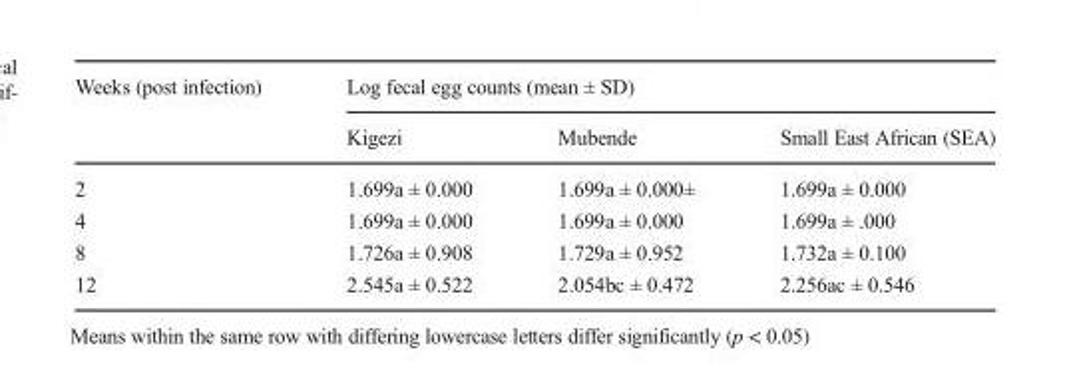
<table><thead><tr><td rowspan="2">Weeks (post infection)</td><td colspan="3">Log fecal egg counts (mean ± SD)</td></tr><tr><td>Kigezi</td><td>Mubende</td><td>Small East African (SEA)</td></tr></thead><tbody><tr><td>2</td><td>1.699a ± 0.000</td><td>1.699a ± 0.000±</td><td>1.699a ± 0.000</td></tr><tr><td>4</td><td>1.699a ± 0.000</td><td>1.699a ± 0.000</td><td>1.699a ± .000</td></tr><tr><td>8</td><td>1.726a ± 0.908</td><td>1.729a ± 0.952</td><td>1.732a ± 0.100</td></tr><tr><td>12</td><td>2.545a ± 0.522</td><td>2.054bc ± 0.472</td><td>2.256ac ± 0.546</td></tr></tbody></table>